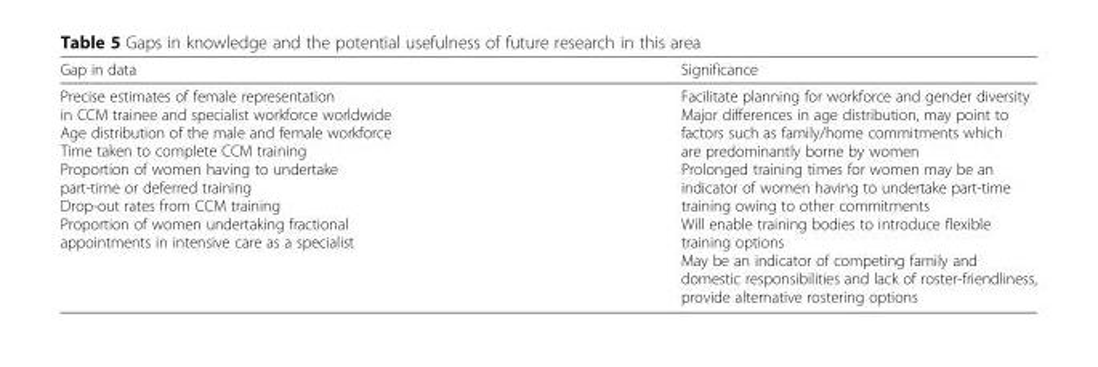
<table><thead><tr><td>Gap in data</td><td>Significance</td></tr></thead><tbody><tr><td>Precise estimates of female representation in CCM trainee and specialist workforce worldwide Age distribution of the male and female workforce Time taken to complete CCM training Proportion of women having to undertake part-time or deferred training Drop-out rates from CCM training Proportion of women undertaking fractional appointments in intensive care as a specialist</td><td>Facilitate planning for workforce and gender diversity Major differences in age distribution, may point to factors such as family/home commitments which are predominantly borne by women Prolonged training times for women may be an indicator of women having to undertake part-time training owing to other commitments Will enable training bodies to introduce flexible training options May be an indicator of competing family and domestic responsibilities and lack of roster-friendliness, provide alternative rostering options</td></tr></tbody></table>